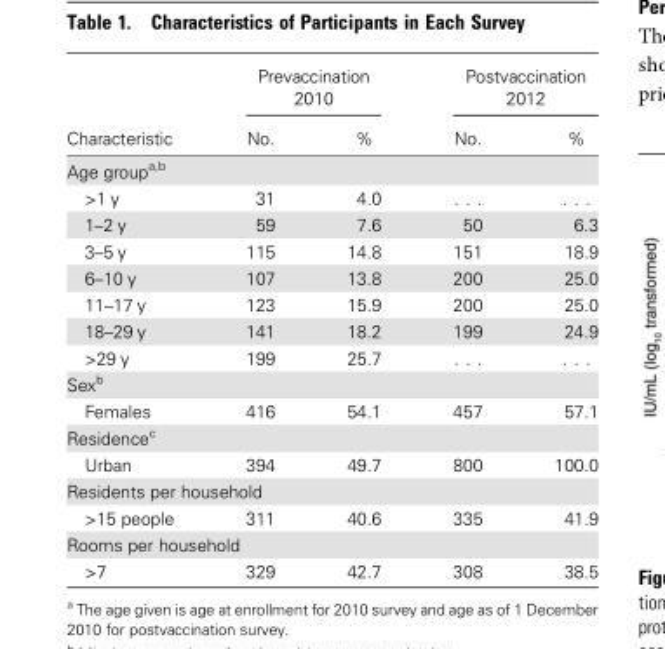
<table><thead><tr><td rowspan="2">Characteristic</td><td colspan="2">Prevaccination 2010</td><td colspan="2">Postvaccination 2012</td></tr><tr><td>No.</td><td>%</td><td>No.</td><td>%</td></tr></thead><tbody><tr><td colspan="5">Age group<sup>a,b</sup></td></tr><tr><td>&gt;1 y</td><td>31</td><td>4.0</td><td>. . .</td><td>. . .</td></tr><tr><td>1–2 y</td><td>59</td><td>7.6</td><td>50</td><td>6.3</td></tr><tr><td>3–5 y</td><td>115</td><td>14.8</td><td>151</td><td>18.9</td></tr><tr><td>6–10 y</td><td>107</td><td>13.8</td><td>200</td><td>25.0</td></tr><tr><td>11–17 y</td><td>123</td><td>15.9</td><td>200</td><td>25.0</td></tr><tr><td>18–29 y</td><td>141</td><td>18.2</td><td>199</td><td>24.9</td></tr><tr><td>&gt;29 y</td><td>199</td><td>25.7</td><td>. . .</td><td>. . .</td></tr><tr><td colspan="5">Sex<sup>b</sup></td></tr><tr><td>Females</td><td>416</td><td>54.1</td><td>457</td><td>57.1</td></tr><tr><td colspan="5">Residence<sup>c</sup></td></tr><tr><td>Urban</td><td>394</td><td>49.7</td><td>800</td><td>100.0</td></tr><tr><td colspan="5">Residents per household</td></tr><tr><td>&gt;15 people</td><td>311</td><td>40.6</td><td>335</td><td>41.9</td></tr><tr><td colspan="5">Rooms per household</td></tr><tr><td>&gt;7</td><td>329</td><td>42.7</td><td>308</td><td>38.5</td></tr></tbody></table>